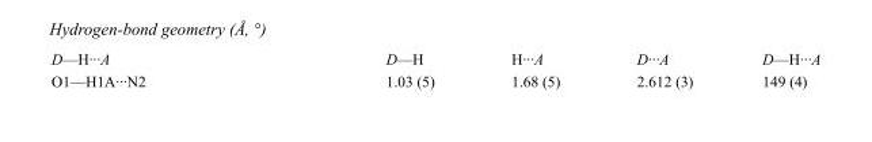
<table><tbody><tr><td>D—H···A</td><td>D—H</td><td>H···A</td><td>D···A</td><td>D—H···A</td></tr><tr><td>O1—H1A···N2</td><td>1.03 (5)</td><td>1.68 (5)</td><td>2.612 (3)</td><td>149 (4)</td></tr></tbody></table>